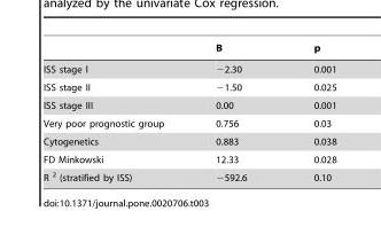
<table><thead><tr><td></td><td>B</td><td>p</td></tr></thead><tbody><tr><td>ISS stage l</td><td>−2.30</td><td>0.001</td></tr><tr><td>ISS stage II</td><td>−1.50</td><td>0.025</td></tr><tr><td>ISS stage III</td><td>0.00</td><td>0.001</td></tr><tr><td>Very poor prognostic group</td><td>0.756</td><td>0.03</td></tr><tr><td>Cytogenetics</td><td>0.883</td><td>0.038</td></tr><tr><td>FD Minkowski</td><td>12.33</td><td>0.028</td></tr><tr><td>R <sup>2</sup> (stratified by ISS)</td><td>−592.6</td><td>0.10</td></tr></tbody></table>